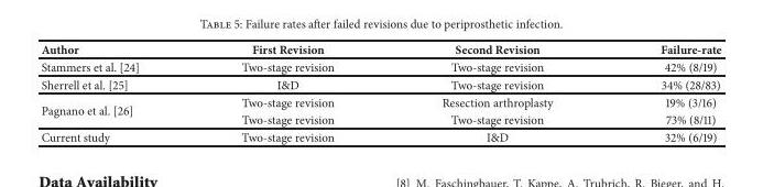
<table><thead><tr><td>Author</td><td>First Revision</td><td>Second Revision</td><td>Failure-rate</td></tr></thead><tbody><tr><td>Stammers et al. [24]</td><td>Two-stage revision</td><td>Two-stage revision</td><td>42% (8/19)</td></tr><tr><td>Sherrell et al. [25]</td><td>I&amp;D</td><td>Two-stage revision</td><td>34% (28/83)</td></tr><tr><td rowspan="2">Pagnano et al. [26]</td><td>Two-stage revision</td><td>Resection arthroplasty</td><td>19% (3/16)</td></tr><tr><td>Two-stage revision</td><td>Two-stage revision</td><td>73% (8/11)</td></tr><tr><td>Current study</td><td>Two-stage revision</td><td>I&amp;D</td><td>32% (6/19)</td></tr></tbody></table>